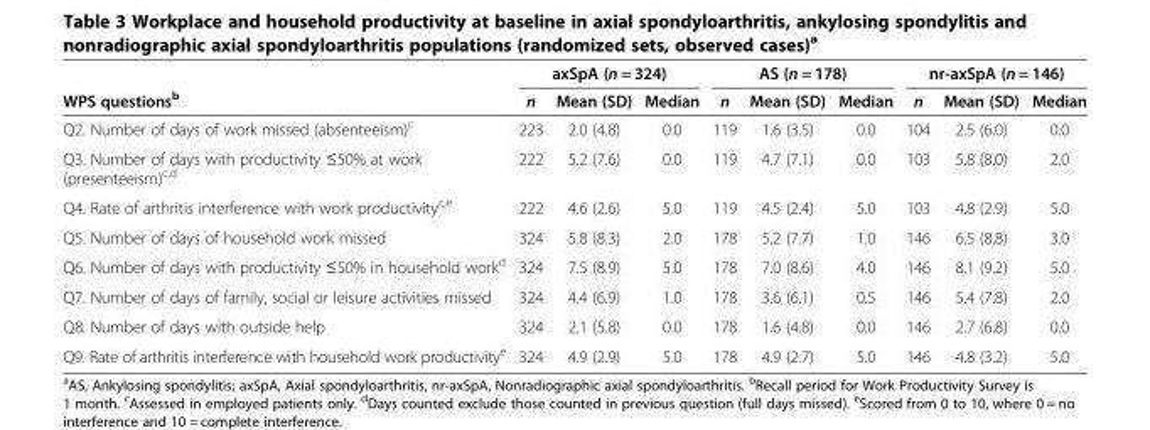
<table><thead><tr><td rowspan="2">WPS questions<sup>b</sup></td><td colspan="3">axSpA (n = 324)</td><td colspan="3">AS (n = 178)</td><td colspan="3">nr-axSpA (n = 146)</td></tr><tr><td>n</td><td>Mean (SD)</td><td>Median</td><td>n</td><td>Mean (SD)</td><td>Median</td><td>n</td><td>Mean (SD)</td><td>Median</td></tr></thead><tbody><tr><td>Q2. Number of days of work missed (absenteeism)<sup>c</sup></td><td>223</td><td>2.0 (4.8)</td><td>0.0</td><td>119</td><td>1.6 (3.5)</td><td>0.0</td><td>104</td><td>2.5 (6.0)</td><td>0.0</td></tr><tr><td>Q3. Number of days with productivity ≤50% at work (presenteeism)<sup>c,d</sup></td><td>222</td><td>5.2 (7.6)</td><td>0.0</td><td>119</td><td>4.7 (7.1)</td><td>0.0</td><td>103</td><td>5.8 (8.0)</td><td>2.0</td></tr><tr><td>Q4. Rate of arthritis interference with work productivity<sup>c,e</sup></td><td>222</td><td>4.6 (2.6)</td><td>5.0</td><td>119</td><td>4.5 (2.4)</td><td>5.0</td><td>103</td><td>4.8 (2.9)</td><td>5.0</td></tr><tr><td>Q5. Number of days of household work missed</td><td>324</td><td>5.8 (8.3)</td><td>2.0</td><td>178</td><td>5.2 (7.7)</td><td>1.0</td><td>146</td><td>6.5 (8.8)</td><td>3.0</td></tr><tr><td>Q6. Number of days with productivity ≤50% in household work<sup>d</sup></td><td>324</td><td>7.5 (8.9)</td><td>5.0</td><td>178</td><td>7.0 (8.6)</td><td>4.0</td><td>146</td><td>8.1 (9.2)</td><td>5.0</td></tr><tr><td>Q7. Number of days of family, social or leisure activities missed</td><td>324</td><td>4.4 (6.9)</td><td>1.0</td><td>178</td><td>3.6 (6.1)</td><td>0.5</td><td>146</td><td>5.4 (7.8)</td><td>2.0</td></tr><tr><td>Q8. Number of days with outside help</td><td>324</td><td>2.1 (5.8)</td><td>0.0</td><td>178</td><td>1.6 (4.8)</td><td>0.0</td><td>146</td><td>2.7 (6.8)</td><td>0.0</td></tr><tr><td>Q9. Rate of arthritis interference with household work productivity<sup>e</sup></td><td>324</td><td>4.9 (2.9)</td><td>5.0</td><td>178</td><td>4.9 (2.7)</td><td>5.0</td><td>146</td><td>4.8 (3.2)</td><td>5.0</td></tr></tbody></table>